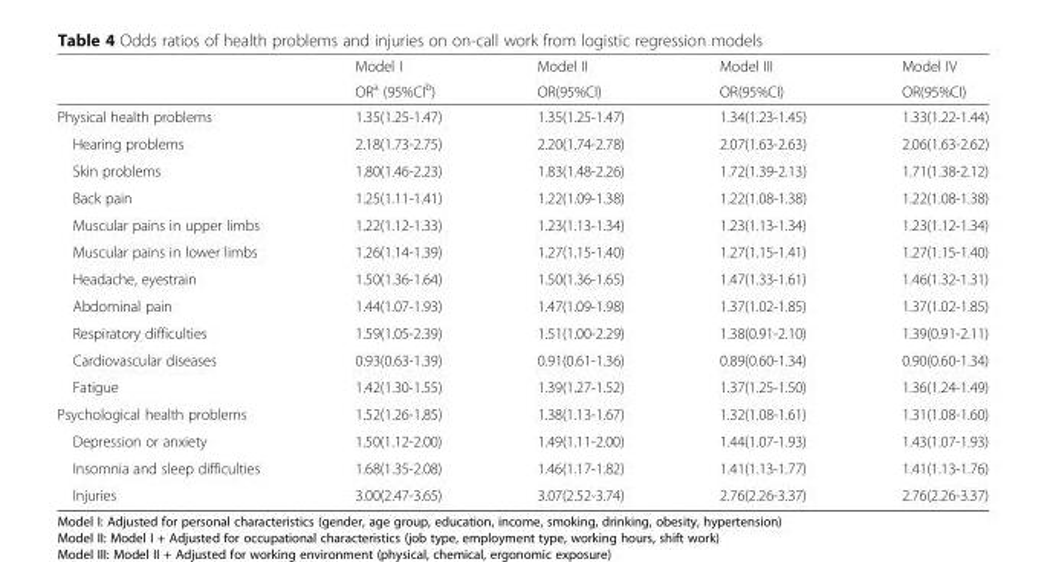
<table><thead><tr><td rowspan="2"></td><td rowspan="2">Model I OR<sup>a</sup> (95%CI<sup>b</sup>)</td><td rowspan="2">Model II OR(95%CI)</td><td rowspan="2">Model III OR(95%CI)</td><td rowspan="2">Model IV OR(95%CI)</td></tr><tr></tr></thead><tbody><tr><td>Physical health problems</td><td>1.35(1.25-1.47)</td><td>1.35(1.25-1.47)</td><td>1.34(1.23-1.45)</td><td>1.33(1.22-1.44)</td></tr><tr><td>Hearing problems</td><td>2.18(1.73-2.75)</td><td>2.20(1.74-2.78)</td><td>2.07(1.63-2.63)</td><td>2.06(1.63-2.62)</td></tr><tr><td>Skin problems</td><td>1.80(1.46-2.23)</td><td>1.83(1.48-2.26)</td><td>1.72(1.39-2.13)</td><td>1.71(1.38-2.12)</td></tr><tr><td>Back pain</td><td>1.25(1.11-1.41)</td><td>1.22(1.09-1.38)</td><td>1.22(1.08-1.38)</td><td>1.22(1.08-1.38)</td></tr><tr><td>Muscular pains in upper limbs</td><td>1.22(1.12-1.33)</td><td>1.23(1.13-1.34)</td><td>1.23(1.13-1.34)</td><td>1.23(1.12-1.34)</td></tr><tr><td>Muscular pains in lower limbs</td><td>1.26(1.14-1.39)</td><td>1.27(1.15-1.40)</td><td>1.27(1.15-1.41)</td><td>1.27(1.15-1.40)</td></tr><tr><td>Headache, eyestrain</td><td>1.50(1.36-1.64)</td><td>1.50(1.36-1.65)</td><td>1.47(1.33-1.61)</td><td>1.46(1.32-1.31)</td></tr><tr><td>Abdominal pain</td><td>1.44(1.07-1.93)</td><td>1.47(1.09-1.98)</td><td>1.37(1.02-1.85)</td><td>1.37(1.02-1.85)</td></tr><tr><td>Respiratory difficulties</td><td>1.59(1.05-2.39)</td><td>1.51(1.00-2.29)</td><td>1.38(0.91-2.10)</td><td>1.39(0.91-2.11)</td></tr><tr><td>Cardiovascular diseases</td><td>0.93(0.63-1.39)</td><td>0.91(0.61-1.36)</td><td>0.89(0.60-1.34)</td><td>0.90(0.60-1.34)</td></tr><tr><td>Fatigue</td><td>1.42(1.30-1.55)</td><td>1.39(1.27-1.52)</td><td>1.37(1.25-1.50)</td><td>1.36(1.24-1.49)</td></tr><tr><td>Psychological health problems</td><td>1.52(1.26-1.85)</td><td>1.38(1.13-1.67)</td><td>1.32(1.08-1.61)</td><td>1.31(1.08-1.60)</td></tr><tr><td>Depression or anxiety</td><td>1.50(1.12-2.00)</td><td>1.49(1.11-2.00)</td><td>1.44(1.07-1.93)</td><td>1.43(1.07-1.93)</td></tr><tr><td>Insomnia and sleep difficulties</td><td>1.68(1.35-2.08)</td><td>1.46(1.17-1.82)</td><td>1.41(1.13-1.77)</td><td>1.41(1.13-1.76)</td></tr><tr><td>Injuries</td><td>3.00(2.47-3.65)</td><td>3.07(2.52-3.74)</td><td>2.76(2.26-3.37)</td><td>2.76(2.26-3.37)</td></tr></tbody></table>